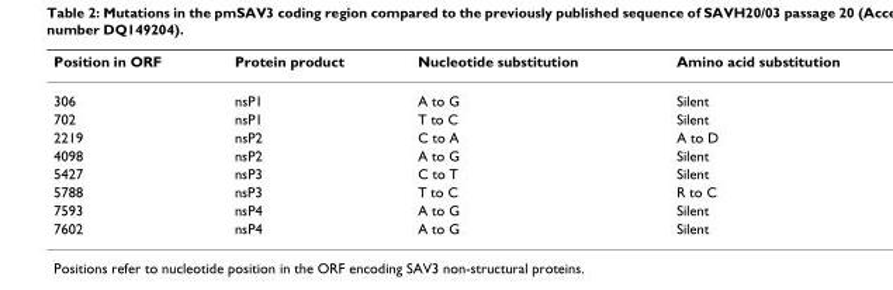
<table><thead><tr><td>Position in ORF</td><td>Protein product</td><td>Nucleotide substitution</td><td>Amino acid substitution</td></tr></thead><tbody><tr><td>306</td><td>nsP1</td><td>A to G</td><td>Silent</td></tr><tr><td>702</td><td>nsP1</td><td>T to C</td><td>Silent</td></tr><tr><td>2219</td><td>nsP2</td><td>C to A</td><td>A to D</td></tr><tr><td>4098</td><td>nsP2</td><td>A to G</td><td>Silent</td></tr><tr><td>5427</td><td>nsP3</td><td>C to T</td><td>Silent</td></tr><tr><td>5788</td><td>nsP3</td><td>T to C</td><td>R to C</td></tr><tr><td>7593</td><td>nsP4</td><td>A to G</td><td>Silent</td></tr><tr><td>7602</td><td>nsP4</td><td>A to G</td><td>Silent</td></tr></tbody></table>